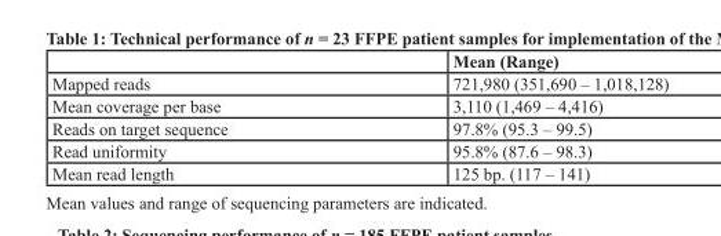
<table><thead><tr><td></td><td>Mean (Range)</td></tr></thead><tbody><tr><td>Mapped reads</td><td>721,980 (351,690 – 1,018,128)</td></tr><tr><td>Mean coverage per base</td><td>3,110 (1,469 – 4,416)</td></tr><tr><td>Reads on target sequence</td><td>97.8% (95.3 – 99.5)</td></tr><tr><td>Read uniformity</td><td>95.8% (87.6 – 98.3)</td></tr><tr><td>Mean read length</td><td>125 bp. (117 – 141)</td></tr></tbody></table>